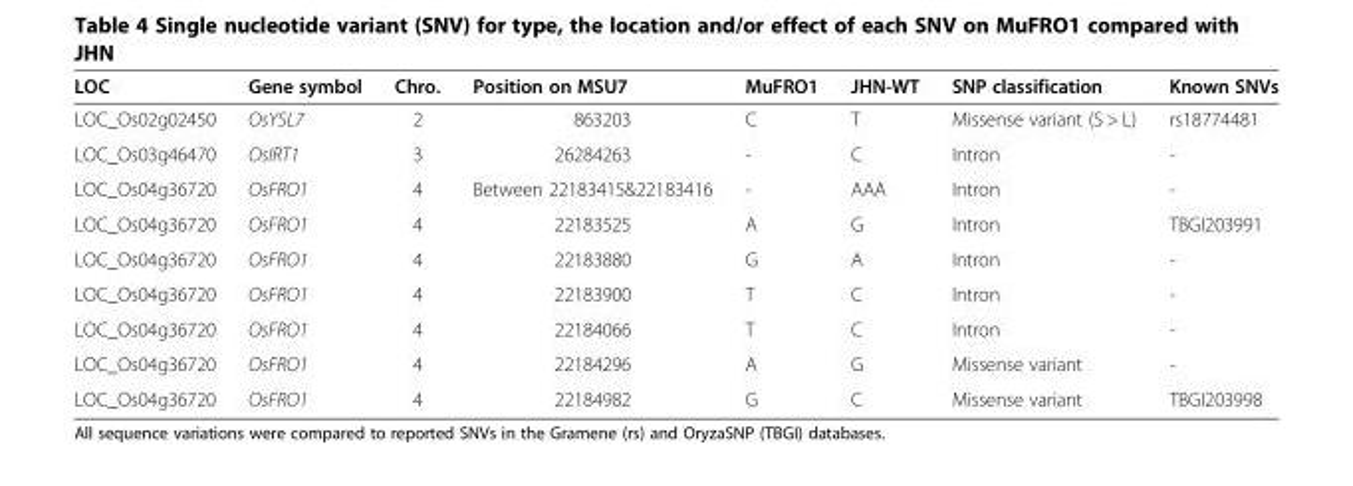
<table><thead><tr><td>LOC</td><td>Gene symbol</td><td>Chro.</td><td>Position on MSU7</td><td>MuFRO1</td><td>JHN-WT</td><td>SNP classification</td><td>Known SNVs</td></tr></thead><tbody><tr><td>LOC_Os02g02450</td><td>OsYSL7</td><td>2</td><td>863203</td><td>C</td><td>T</td><td>Missense variant (S &gt; L)</td><td>rs18774481</td></tr><tr><td>LOC_Os03g46470</td><td>OsIRT1</td><td>3</td><td>26284263</td><td>-</td><td>C</td><td>Intron</td><td>-</td></tr><tr><td>LOC_Os04g36720</td><td>OsFRO1</td><td>4</td><td>Between 22183415&amp;22183416</td><td>-</td><td>AAA</td><td>Intron</td><td>-</td></tr><tr><td>LOC_Os04g36720</td><td>OsFRO1</td><td>4</td><td>22183525</td><td>A</td><td>G</td><td>Intron</td><td>TBGI203991</td></tr><tr><td>LOC_Os04g36720</td><td>OsFRO1</td><td>4</td><td>22183880</td><td>G</td><td>A</td><td>Intron</td><td>-</td></tr><tr><td>LOC_Os04g36720</td><td>OsFRO1</td><td>4</td><td>22183900</td><td>T</td><td>C</td><td>Intron</td><td>-</td></tr><tr><td>LOC_Os04g36720</td><td>OsFRO1</td><td>4</td><td>22184066</td><td>T</td><td>C</td><td>Intron</td><td>-</td></tr><tr><td>LOC_Os04g36720</td><td>OsFRO1</td><td>4</td><td>22184296</td><td>A</td><td>G</td><td>Missense variant</td><td>-</td></tr><tr><td>LOC_Os04g36720</td><td>OsFRO1</td><td>4</td><td>22184982</td><td>G</td><td>C</td><td>Missense variant</td><td>TBGI203998</td></tr></tbody></table>